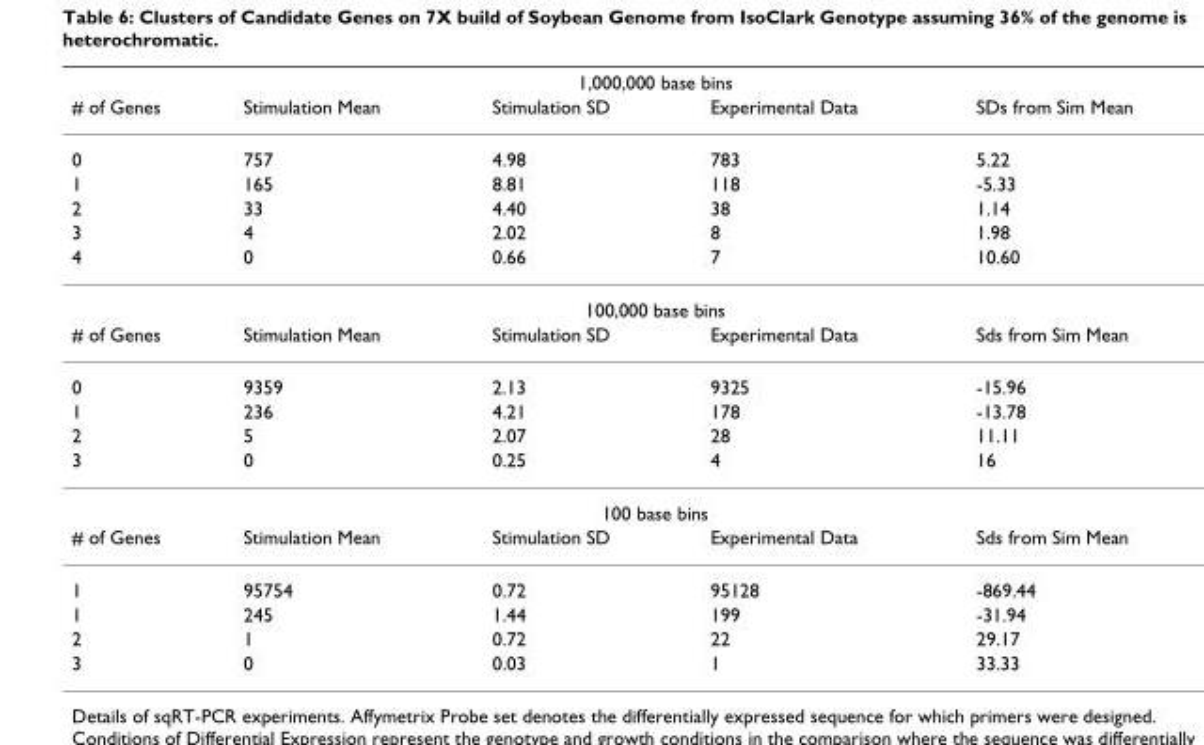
<table><thead><tr><td colspan="5">1,000,000 base bins</td></tr><tr><td># of Genes</td><td>Stimulation Mean</td><td>Stimulation SD</td><td>Experimental Data</td><td>SDs from Sim Mean</td></tr></thead><tbody><tr><td>0</td><td>757</td><td>4.98</td><td>783</td><td>5.22</td></tr><tr><td>1</td><td>165</td><td>8.81</td><td>118</td><td>-5.33</td></tr><tr><td>2</td><td>33</td><td>4.40</td><td>38</td><td>1.14</td></tr><tr><td>3</td><td>4</td><td>2.02</td><td>8</td><td>1.98</td></tr><tr><td>4</td><td>0</td><td>0.66</td><td>7</td><td>10.60</td></tr><tr><td colspan="5">100,000 base bins</td></tr><tr><td># of Genes</td><td>Stimulation Mean</td><td>Stimulation SD</td><td>Experimental Data</td><td>Sds from Sim Mean</td></tr><tr><td>0</td><td>9359</td><td>2.13</td><td>9325</td><td>-15.96</td></tr><tr><td>1</td><td>236</td><td>4.21</td><td>178</td><td>-13.78</td></tr><tr><td>2</td><td>5</td><td>2.07</td><td>28</td><td>11.11</td></tr><tr><td>3</td><td>0</td><td>0.25</td><td>4</td><td>16</td></tr><tr><td colspan="5">100 base bins</td></tr><tr><td># of Genes</td><td>Stimulation Mean</td><td>Stimulation SD</td><td>Experimental Data</td><td>Sds from Sim Mean</td></tr><tr><td>1</td><td>95754</td><td>0.72</td><td>95128</td><td>-869.44</td></tr><tr><td>1</td><td>245</td><td>1.44</td><td>199</td><td>-31.94</td></tr><tr><td>2</td><td>1</td><td>0.72</td><td>22</td><td>29.17</td></tr><tr><td>3</td><td>0</td><td>0.03</td><td>1</td><td>33.33</td></tr></tbody></table>